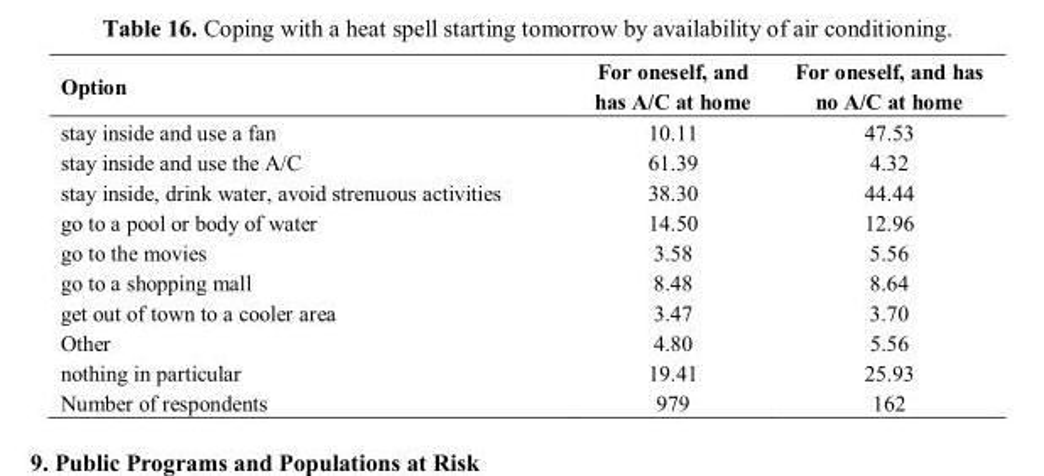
<table><thead><tr><td>Option</td><td>For oneself, and has A/C at home</td><td>For oneself, and has no A/C at home</td></tr></thead><tbody><tr><td>stay inside and use a fan</td><td>10.11</td><td>47.53</td></tr><tr><td>stay inside and use the A/C</td><td>61.39</td><td>4.32</td></tr><tr><td>stay inside, drink water, avoid strenuous activities</td><td>38.30</td><td>44.44</td></tr><tr><td>go to a pool or body of water</td><td>14.50</td><td>12.96</td></tr><tr><td>go to the movies</td><td>3.58</td><td>5.56</td></tr><tr><td>go to a shopping mall</td><td>8.48</td><td>8.64</td></tr><tr><td>get out of town to a cooler area</td><td>3.47</td><td>3.70</td></tr><tr><td>Other</td><td>4.80</td><td>5.56</td></tr><tr><td>nothing in particular</td><td>19.41</td><td>25.93</td></tr><tr><td>Number of respondents</td><td>979</td><td>162</td></tr></tbody></table>